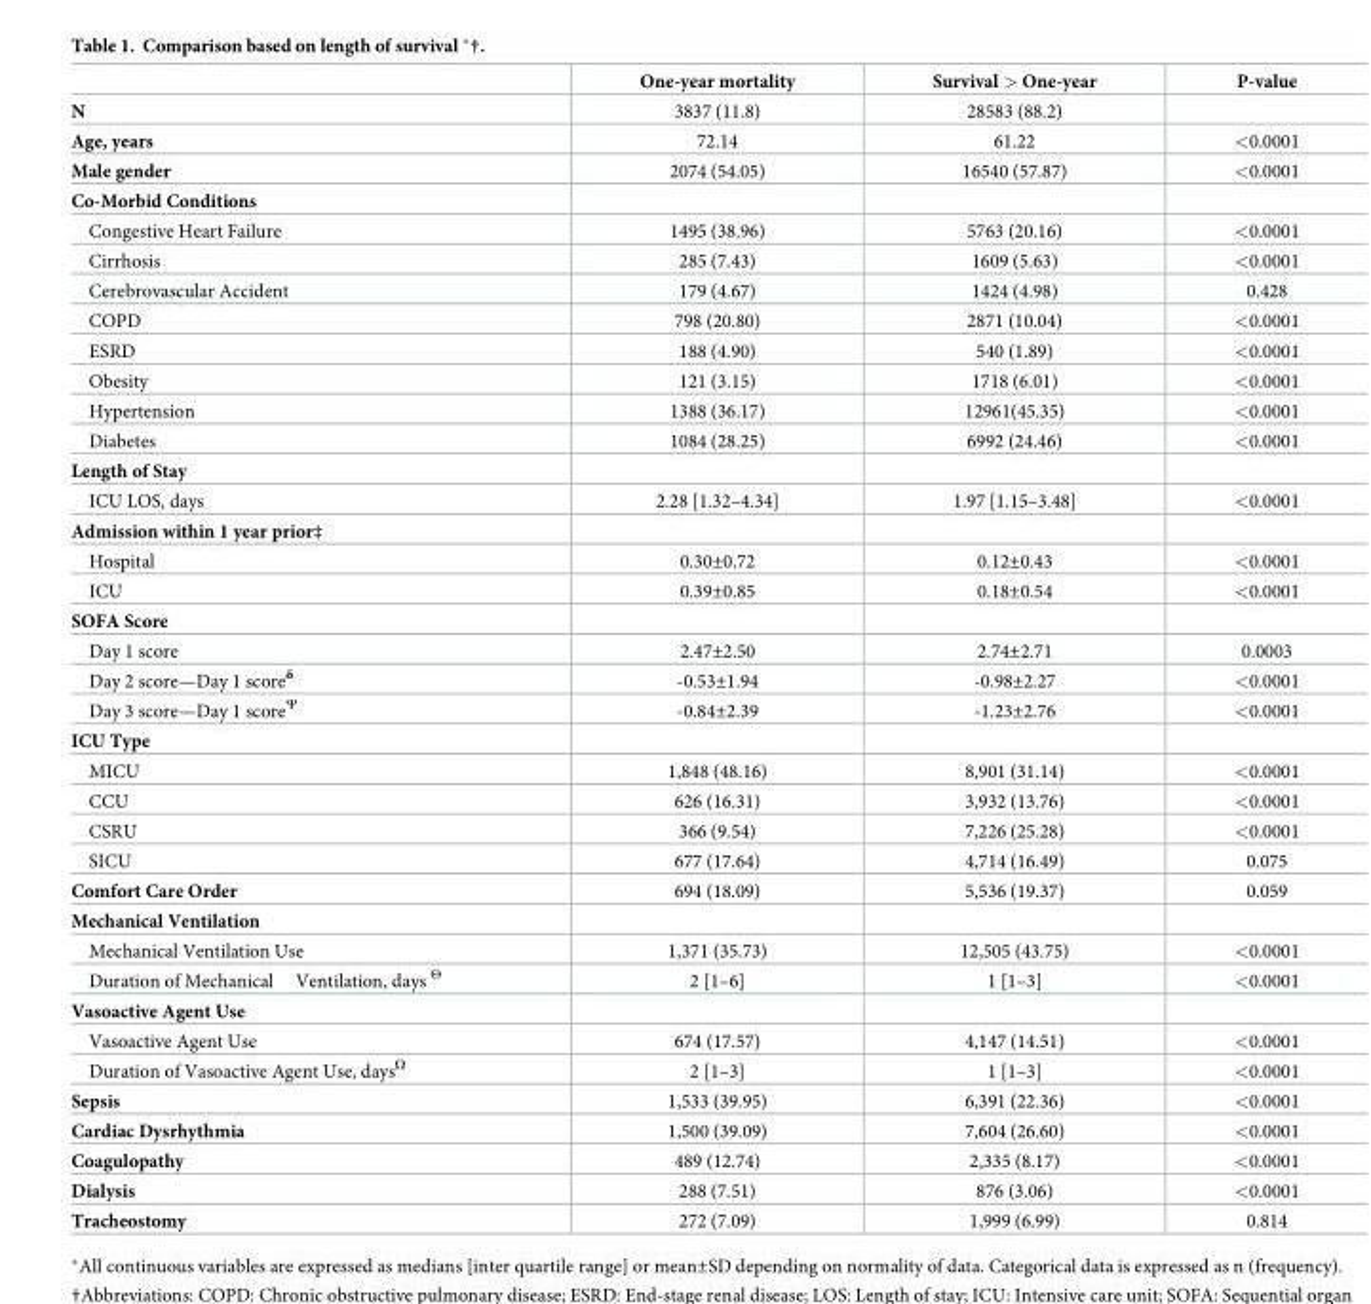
<table><thead><tr><td></td><td>One-year mortality</td><td>Survival &gt; One-year</td><td>P-value</td></tr></thead><tbody><tr><td>N</td><td>3837 (11.8)</td><td>28583 (88.2)</td><td></td></tr><tr><td>Age, years</td><td>72.14</td><td>61.22</td><td>&lt;0.0001</td></tr><tr><td>Male gender</td><td>2074 (54.05)</td><td>16540 (57.87)</td><td>&lt;0.0001</td></tr><tr><td colspan="4">Co-Morbid Conditions</td></tr><tr><td>Congestive Heart Failure</td><td>1495 (38.96)</td><td>5763 (20.16)</td><td>&lt;0.0001</td></tr><tr><td>Cirrhosis</td><td>285 (7.43)</td><td>1609 (5.63)</td><td>&lt;0.0001</td></tr><tr><td>Cerebrovascular Accident</td><td>179 (4.67)</td><td>1424 (4.98)</td><td>0.428</td></tr><tr><td>COPD</td><td>798 (20.80)</td><td>2871 (10.04)</td><td>&lt;0.0001</td></tr><tr><td>ESRD</td><td>188 (4.90)</td><td>540 (1.89)</td><td>&lt;0.0001</td></tr><tr><td>Obesity</td><td>121 (3.15)</td><td>1718 (6.01)</td><td>&lt;0.0001</td></tr><tr><td>Hypertension</td><td>1388 (36.17)</td><td>12961(45.35)</td><td>&lt;0.0001</td></tr><tr><td>Diabetes</td><td>1084 (28.25)</td><td>6992 (24.46)</td><td>&lt;0.0001</td></tr><tr><td colspan="4">Length of Stay</td></tr><tr><td>ICU LOS, days</td><td>2.28 [1.32–4.34]</td><td>1.97 [1.15–3.48]</td><td>&lt;0.0001</td></tr><tr><td colspan="4">Admission within 1 year prior‡</td></tr><tr><td>Hospital</td><td>0.30±0.72</td><td>0.12±0.43</td><td>&lt;0.0001</td></tr><tr><td>ICU</td><td>0.39±0.85</td><td>0.18±0.54</td><td>&lt;0.0001</td></tr><tr><td colspan="4">SOFA Score</td></tr><tr><td>Day 1 score</td><td>2.47±2.50</td><td>2.74±2.71</td><td>0.0003</td></tr><tr><td>Day 2 score—Day 1 score<sup>δ</sup></td><td>-0.53±1.94</td><td>-0.98±2.27</td><td>&lt;0.0001</td></tr><tr><td>Day 3 score—Day 1 score<sup>Ψ</sup></td><td>-0.84±2.39</td><td>-1.23±2.76</td><td>&lt;0.0001</td></tr><tr><td colspan="4">ICU Type</td></tr><tr><td>MICU</td><td>1,848 (48.16)</td><td>8,901 (31.14)</td><td>&lt;0.0001</td></tr><tr><td>CCU</td><td>626 (16.31)</td><td>3,932 (13.76)</td><td>&lt;0.0001</td></tr><tr><td>CSRU</td><td>366 (9.54)</td><td>7,226 (25.28)</td><td>&lt;0.0001</td></tr><tr><td>SICU</td><td>677 (17.64)</td><td>4,714 (16.49)</td><td>0.075</td></tr><tr><td>Comfort Care Order</td><td>694 (18.09)</td><td>5,536 (19.37)</td><td>0.059</td></tr><tr><td colspan="4">Mechanical Ventilation</td></tr><tr><td>Mechanical Ventilation Use</td><td>1,371 (35.73)</td><td>12,505 (43.75)</td><td>&lt;0.0001</td></tr><tr><td>Duration of Mechanical Ventilation, days <sup>Θ</sup></td><td>2 [1–6]</td><td>1 [1–3]</td><td>&lt;0.0001</td></tr><tr><td colspan="4">Vasoactive Agent Use</td></tr><tr><td>Vasoactive Agent Use</td><td>674 (17.57)</td><td>4,147 (14.51)</td><td>&lt;0.0001</td></tr><tr><td>Duration of Vasoactive Agent Use, days<sup>Ω</sup></td><td>2 [1–3]</td><td>1 [1–3]</td><td>&lt;0.0001</td></tr><tr><td>Sepsis</td><td>1,533 (39.95)</td><td>6,391 (22.36)</td><td>&lt;0.0001</td></tr><tr><td>Cardiac Dysrhythmia</td><td>1,500 (39.09)</td><td>7,604 (26.60)</td><td>&lt;0.0001</td></tr><tr><td>Coagulopathy</td><td>489 (12.74)</td><td>2,335 (8.17)</td><td>&lt;0.0001</td></tr><tr><td>Dialysis</td><td>288 (7.51)</td><td>876 (3.06)</td><td>&lt;0.0001</td></tr><tr><td>Tracheostomy</td><td>272 (7.09)</td><td>1,999 (6.99)</td><td>0.814</td></tr></tbody></table>